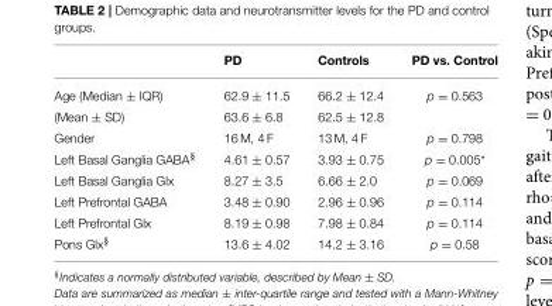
<table><thead><tr><td></td><td>PD</td><td>Controls</td><td>PD vs. Control</td></tr></thead><tbody><tr><td>Age (Median ± IQR)</td><td>62.9 ± 11.5</td><td>66.2 ± 12.4</td><td>p = 0.563</td></tr><tr><td>(Mean ± SD)</td><td>63.6 ± 6.8</td><td>62.5 ± 12.8</td><td></td></tr><tr><td>Gender</td><td>16 M, 4 F</td><td>13 M, 4 F</td><td>p = 0.798</td></tr><tr><td>Left Basal Ganglia GABA<sup>§</sup></td><td>4.61 ± 0.57</td><td>3.93 ± 0.75</td><td>p = 0.005*</td></tr><tr><td>Left Basal Ganglia Glx</td><td>8.27 ± 3.5</td><td>6.66 ± 2.0</td><td>p = 0.069</td></tr><tr><td>Left Prefrontal GABA</td><td>3.48 ± 0.90</td><td>2.96 ± 0.96</td><td>p = 0.114</td></tr><tr><td>Left Prefrontal Glx</td><td>8.19 ± 0.98</td><td>7.98 ± 0.84</td><td>p = 0.114</td></tr><tr><td>Pons Glx<sup>§</sup></td><td>13.6 ± 4.02</td><td>14.2 ± 3.16</td><td>p = 0.58</td></tr></tbody></table>